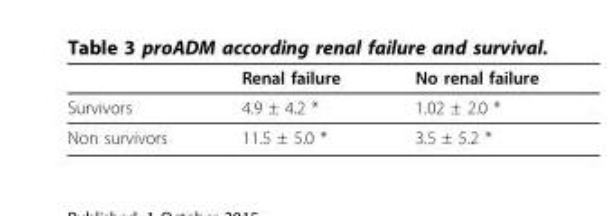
<table><thead><tr><td></td><td>Renal failure</td><td>No renal failure</td></tr></thead><tbody><tr><td>Survivors</td><td>4.9 ± 4.2 *</td><td>1.02 ± 2.0 *</td></tr><tr><td>Non survivors</td><td>11.5 ± 5.0 *</td><td>3.5 ± 5.2 *</td></tr></tbody></table>